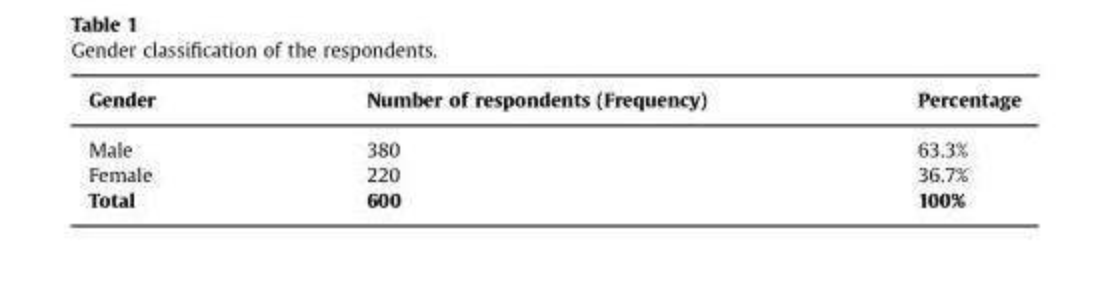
<table><thead><tr><td>Gender</td><td>Number of respondents (Frequency)</td><td>Percentage</td></tr></thead><tbody><tr><td>Male</td><td>380</td><td>63.3%</td></tr><tr><td>Female</td><td>220</td><td>36.7%</td></tr><tr><td>Total</td><td>600</td><td>100%</td></tr></tbody></table>